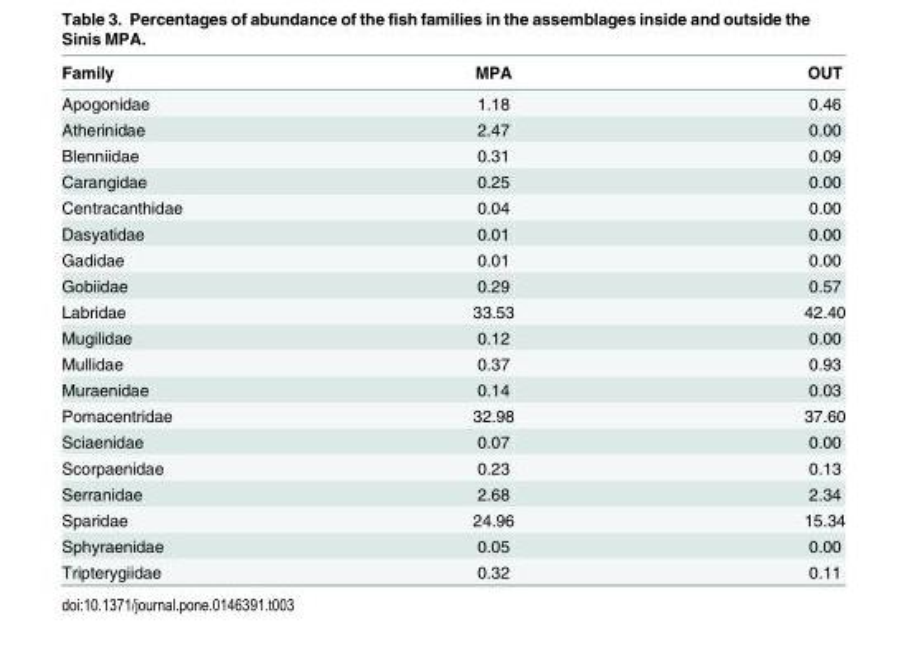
<table><thead><tr><td>Family</td><td>MPA</td><td>OUT</td></tr></thead><tbody><tr><td>Apogonidae</td><td>1.18</td><td>0.46</td></tr><tr><td>Atherinidae</td><td>2.47</td><td>0.00</td></tr><tr><td>Blenniidae</td><td>0.31</td><td>0.09</td></tr><tr><td>Carangidae</td><td>0.25</td><td>0.00</td></tr><tr><td>Centracanthidae</td><td>0.04</td><td>0.00</td></tr><tr><td>Dasyatidae</td><td>0.01</td><td>0.00</td></tr><tr><td>Gadidae</td><td>0.01</td><td>0.00</td></tr><tr><td>Gobiidae</td><td>0.29</td><td>0.57</td></tr><tr><td>Labridae</td><td>33.53</td><td>42.40</td></tr><tr><td>Mugilidae</td><td>0.12</td><td>0.00</td></tr><tr><td>Mullidae</td><td>0.37</td><td>0.93</td></tr><tr><td>Muraenidae</td><td>0.14</td><td>0.03</td></tr><tr><td>Pomacentridae</td><td>32.98</td><td>37.60</td></tr><tr><td>Sciaenidae</td><td>0.07</td><td>0.00</td></tr><tr><td>Scorpaenidae</td><td>0.23</td><td>0.13</td></tr><tr><td>Serranidae</td><td>2.68</td><td>2.34</td></tr><tr><td>Sparidae</td><td>24.96</td><td>15.34</td></tr><tr><td>Sphyraenidae</td><td>0.05</td><td>0.00</td></tr><tr><td>Tripterygiidae</td><td>0.32</td><td>0.11</td></tr></tbody></table>